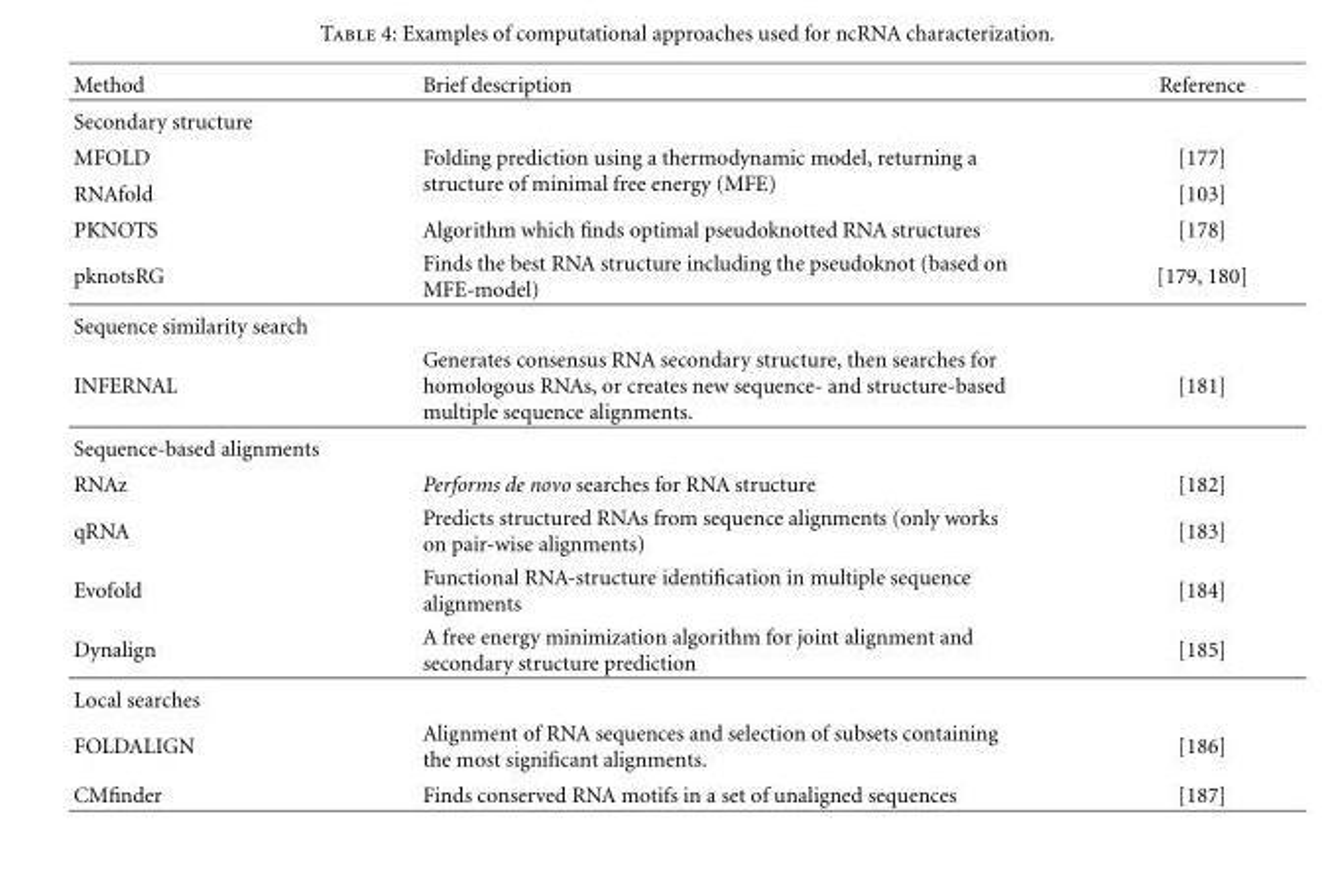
<table><thead><tr><td>Method</td><td>Brief description</td><td>Reference</td></tr></thead><tbody><tr><td colspan="3">Secondary structure</td></tr><tr><td>MFOLD</td><td rowspan="2">Folding prediction using a thermodynamic model, returning a structure of minimal free energy (MFE)</td><td>[177]</td></tr><tr><td>RNAfold</td><td>[103]</td></tr><tr><td>PKNOTS</td><td>Algorithm which finds optimal pseudoknotted RNA structures</td><td>[178]</td></tr><tr><td>pknotsRG</td><td>Finds the best RNA structure including the pseudoknot (based on MFE-model)</td><td>[179, 180]</td></tr><tr><td colspan="3">Sequence similarity search</td></tr><tr><td>INFERNAL</td><td>Generates consensus RNA secondary structure, then searches for homologous RNAs, or creates new sequence- and structure-based multiple sequence alignments.</td><td>[181]</td></tr><tr><td colspan="3">Sequence-based alignments</td></tr><tr><td>RNAz</td><td>Performs de novo searches for RNA structure</td><td>[182]</td></tr><tr><td>qRNA</td><td>Predicts structured RNAs from sequence alignments (only works on pair-wise alignments)</td><td>[183]</td></tr><tr><td>Evofold</td><td>Functional RNA-structure identification in multiple sequence alignments</td><td>[184]</td></tr><tr><td>Dynalign</td><td>A free energy minimization algorithm for joint alignment and secondary structure prediction</td><td>[185]</td></tr><tr><td colspan="3">Local searches</td></tr><tr><td>FOLDALIGN</td><td>Alignment of RNA sequences and selection of subsets containing the most significant alignments.</td><td>[186]</td></tr><tr><td>CMfinder</td><td>Finds conserved RNA motifs in a set of unaligned sequences</td><td>[187]</td></tr></tbody></table>